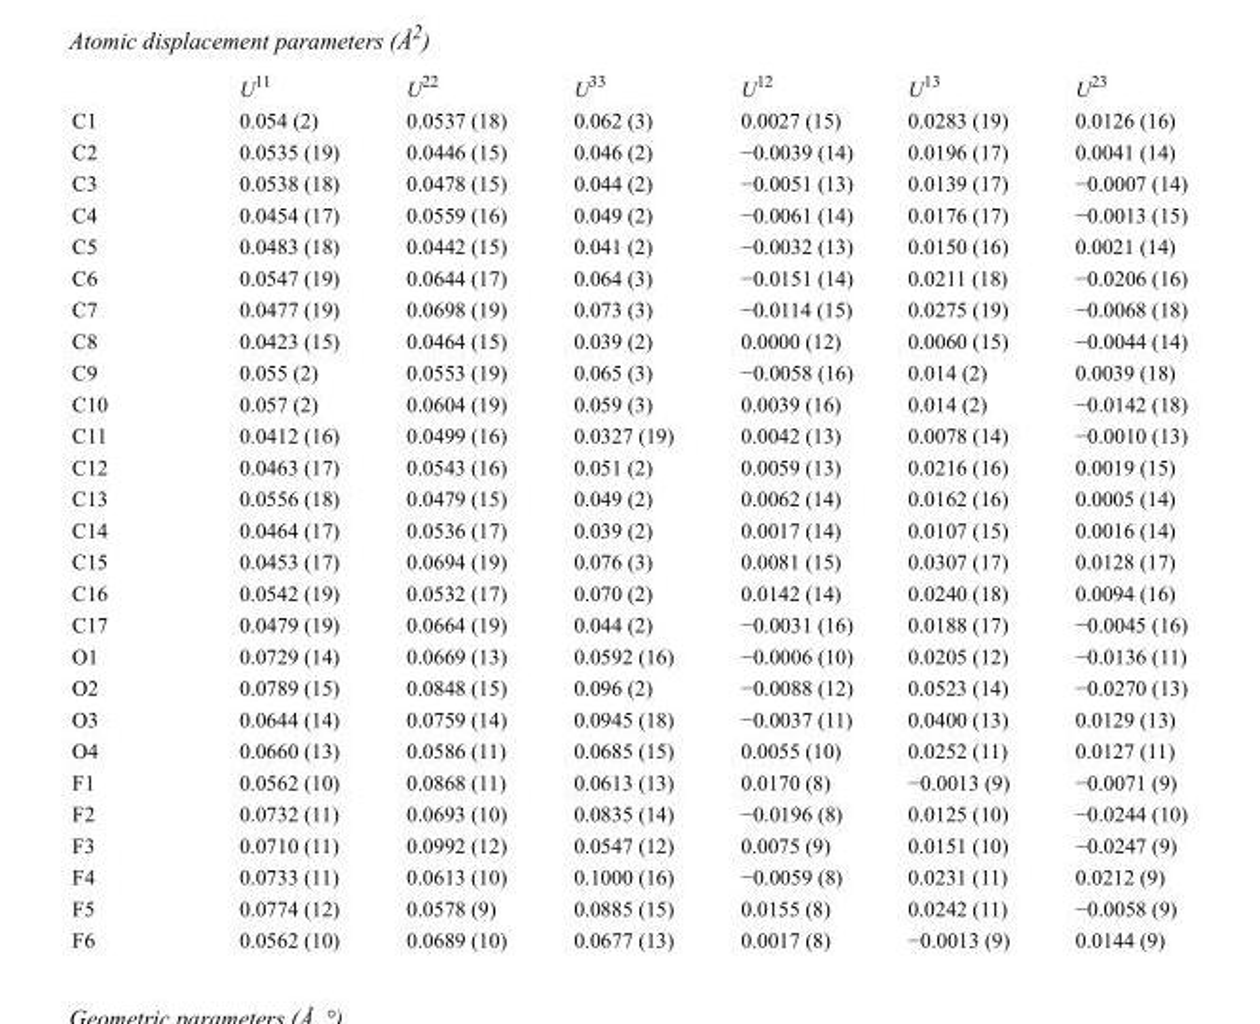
<table><thead><tr><td></td><td>U<sup>11</sup></td><td>U<sup>22</sup></td><td>U<sup>33</sup></td><td>U<sup>12</sup></td><td>U<sup>13</sup></td><td>U<sup>23</sup></td></tr></thead><tbody><tr><td>C1</td><td>0.054 (2)</td><td>0.0537 (18)</td><td>0.062 (3)</td><td>0.0027 (15)</td><td>0.0283 (19)</td><td>0.0126 (16)</td></tr><tr><td>C2</td><td>0.0535 (19)</td><td>0.0446 (15)</td><td>0.046 (2)</td><td>−0.0039 (14)</td><td>0.0196 (17)</td><td>0.0041 (14)</td></tr><tr><td>C3</td><td>0.0538 (18)</td><td>0.0478 (15)</td><td>0.044 (2)</td><td>−0.0051 (13)</td><td>0.0139 (17)</td><td>−0.0007 (14)</td></tr><tr><td>C4</td><td>0.0454 (17)</td><td>0.0559 (16)</td><td>0.049 (2)</td><td>−0.0061 (14)</td><td>0.0176 (17)</td><td>−0.0013 (15)</td></tr><tr><td>C5</td><td>0.0483 (18)</td><td>0.0442 (15)</td><td>0.041 (2)</td><td>−0.0032 (13)</td><td>0.0150 (16)</td><td>0.0021 (14)</td></tr><tr><td>C6</td><td>0.0547 (19)</td><td>0.0644 (17)</td><td>0.064 (3)</td><td>−0.0151 (14)</td><td>0.0211 (18)</td><td>−0.0206 (16)</td></tr><tr><td>C7</td><td>0.0477 (19)</td><td>0.0698 (19)</td><td>0.073 (3)</td><td>−0.0114 (15)</td><td>0.0275 (19)</td><td>−0.0068 (18)</td></tr><tr><td>C8</td><td>0.0423 (15)</td><td>0.0464 (15)</td><td>0.039 (2)</td><td>0.0000 (12)</td><td>0.0060 (15)</td><td>−0.0044 (14)</td></tr><tr><td>C9</td><td>0.055 (2)</td><td>0.0553 (19)</td><td>0.065 (3)</td><td>−0.0058 (16)</td><td>0.014 (2)</td><td>0.0039 (18)</td></tr><tr><td>C10</td><td>0.057 (2)</td><td>0.0604 (19)</td><td>0.059 (3)</td><td>0.0039 (16)</td><td>0.014 (2)</td><td>−0.0142 (18)</td></tr><tr><td>C11</td><td>0.0412 (16)</td><td>0.0499 (16)</td><td>0.0327 (19)</td><td>0.0042 (13)</td><td>0.0078 (14)</td><td>−0.0010 (13)</td></tr><tr><td>C12</td><td>0.0463 (17)</td><td>0.0543 (16)</td><td>0.051 (2)</td><td>0.0059 (13)</td><td>0.0216 (16)</td><td>0.0019 (15)</td></tr><tr><td>C13</td><td>0.0556 (18)</td><td>0.0479 (15)</td><td>0.049 (2)</td><td>0.0062 (14)</td><td>0.0162 (16)</td><td>0.0005 (14)</td></tr><tr><td>C14</td><td>0.0464 (17)</td><td>0.0536 (17)</td><td>0.039 (2)</td><td>0.0017 (14)</td><td>0.0107 (15)</td><td>0.0016 (14)</td></tr><tr><td>C15</td><td>0.0453 (17)</td><td>0.0694 (19)</td><td>0.076 (3)</td><td>0.0081 (15)</td><td>0.0307 (17)</td><td>0.0128 (17)</td></tr><tr><td>C16</td><td>0.0542 (19)</td><td>0.0532 (17)</td><td>0.070 (2)</td><td>0.0142 (14)</td><td>0.0240 (18)</td><td>0.0094 (16)</td></tr><tr><td>C17</td><td>0.0479 (19)</td><td>0.0664 (19)</td><td>0.044 (2)</td><td>−0.0031 (16)</td><td>0.0188 (17)</td><td>−0.0045 (16)</td></tr><tr><td>O1</td><td>0.0729 (14)</td><td>0.0669 (13)</td><td>0.0592 (16)</td><td>−0.0006 (10)</td><td>0.0205 (12)</td><td>−0.0136 (11)</td></tr><tr><td>O2</td><td>0.0789 (15)</td><td>0.0848 (15)</td><td>0.096 (2)</td><td>−0.0088 (12)</td><td>0.0523 (14)</td><td>−0.0270 (13)</td></tr><tr><td>O3</td><td>0.0644 (14)</td><td>0.0759 (14)</td><td>0.0945 (18)</td><td>−0.0037 (11)</td><td>0.0400 (13)</td><td>0.0129 (13)</td></tr><tr><td>O4</td><td>0.0660 (13)</td><td>0.0586 (11)</td><td>0.0685 (15)</td><td>0.0055 (10)</td><td>0.0252 (11)</td><td>0.0127 (11)</td></tr><tr><td>F1</td><td>0.0562 (10)</td><td>0.0868 (11)</td><td>0.0613 (13)</td><td>0.0170 (8)</td><td>−0.0013 (9)</td><td>−0.0071 (9)</td></tr><tr><td>F2</td><td>0.0732 (11)</td><td>0.0693 (10)</td><td>0.0835 (14)</td><td>−0.0196 (8)</td><td>0.0125 (10)</td><td>−0.0244 (10)</td></tr><tr><td>F3</td><td>0.0710 (11)</td><td>0.0992 (12)</td><td>0.0547 (12)</td><td>0.0075 (9)</td><td>0.0151 (10)</td><td>−0.0247 (9)</td></tr><tr><td>F4</td><td>0.0733 (11)</td><td>0.0613 (10)</td><td>0.1000 (16)</td><td>−0.0059 (8)</td><td>0.0231 (11)</td><td>0.0212 (9)</td></tr><tr><td>F5</td><td>0.0774 (12)</td><td>0.0578 (9)</td><td>0.0885 (15)</td><td>0.0155 (8)</td><td>0.0242 (11)</td><td>−0.0058 (9)</td></tr><tr><td>F6</td><td>0.0562 (10)</td><td>0.0689 (10)</td><td>0.0677 (13)</td><td>0.0017 (8)</td><td>−0.0013 (9)</td><td>0.0144 (9)</td></tr></tbody></table>